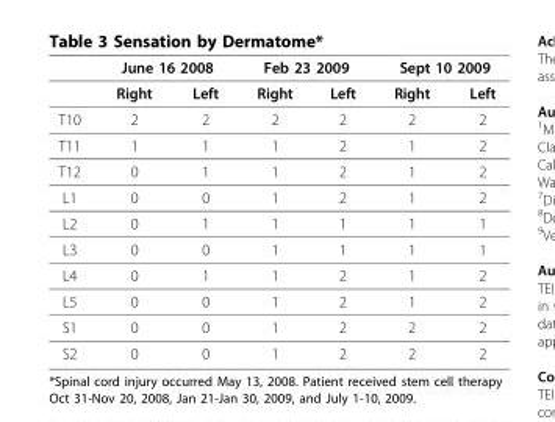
<table><thead><tr><td rowspan="2"></td><td colspan="2">June 16 2008</td><td colspan="2">Feb 23 2009</td><td colspan="2">Sept 10 2009</td></tr><tr><td>Right</td><td>Left</td><td>Right</td><td>Left</td><td>Right</td><td>Left</td></tr></thead><tbody><tr><td>T10</td><td>2</td><td>2</td><td>2</td><td>2</td><td>2</td><td>2</td></tr><tr><td>T11</td><td>1</td><td>1</td><td>1</td><td>2</td><td>1</td><td>2</td></tr><tr><td>T12</td><td>0</td><td>1</td><td>1</td><td>2</td><td>1</td><td>2</td></tr><tr><td>L1</td><td>0</td><td>0</td><td>1</td><td>2</td><td>1</td><td>2</td></tr><tr><td>L2</td><td>0</td><td>1</td><td>1</td><td>1</td><td>1</td><td>1</td></tr><tr><td>L3</td><td>0</td><td>0</td><td>1</td><td>1</td><td>1</td><td>1</td></tr><tr><td>L4</td><td>0</td><td>1</td><td>1</td><td>2</td><td>1</td><td>2</td></tr><tr><td>L5</td><td>0</td><td>0</td><td>1</td><td>2</td><td>1</td><td>2</td></tr><tr><td>S1</td><td>0</td><td>0</td><td>1</td><td>2</td><td>2</td><td>2</td></tr><tr><td>S2</td><td>0</td><td>0</td><td>1</td><td>2</td><td>2</td><td>2</td></tr></tbody></table>